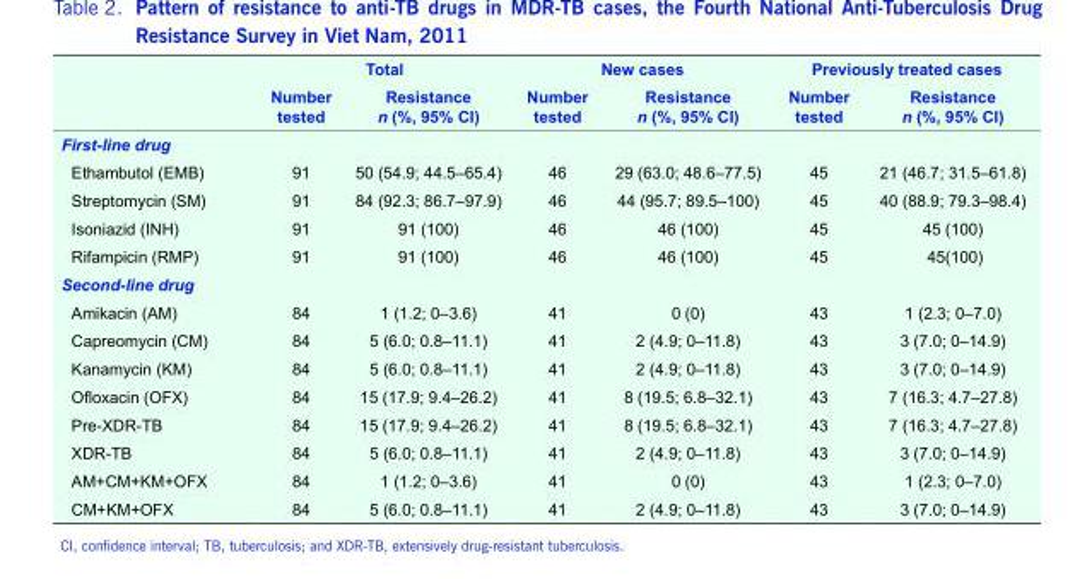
<table><thead><tr><td rowspan="2"></td><td colspan="2">Total</td><td colspan="2">New cases</td><td colspan="2">Previously treated cases</td></tr><tr><td>Number tested</td><td>Resistance n (%, 95% CI)</td><td>Number tested</td><td>Resistance n (%, 95% CI)</td><td>Number tested</td><td>Resistance n (%, 95% CI)</td></tr></thead><tbody><tr><td colspan="7">First-line drug</td></tr><tr><td>Ethambutol (EMB)</td><td>91</td><td>50 (54.9; 44.5–65.4)</td><td>46</td><td>29 (63.0; 48.6–77.5)</td><td>45</td><td>21 (46.7; 31.5–61.8)</td></tr><tr><td>Streptomycin (SM)</td><td>91</td><td>84 (92.3; 86.7–97.9)</td><td>46</td><td>44 (95.7; 89.5–100)</td><td>45</td><td>40 (88.9; 79.3–98.4)</td></tr><tr><td>Isoniazid (INH)</td><td>91</td><td>91 (100)</td><td>46</td><td>46 (100)</td><td>45</td><td>45 (100)</td></tr><tr><td>Rifampicin (RMP)</td><td>91</td><td>91 (100)</td><td>46</td><td>46 (100)</td><td>45</td><td>45(100)</td></tr><tr><td colspan="7">Second-line drug</td></tr><tr><td>Amikacin (AM)</td><td>84</td><td>1 (1.2; 0–3.6)</td><td>41</td><td>0 (0)</td><td>43</td><td>1 (2.3; 0–7.0)</td></tr><tr><td>Capreomycin (CM)</td><td>84</td><td>5 (6.0; 0.8–11.1)</td><td>41</td><td>2 (4.9; 0–11.8)</td><td>43</td><td>3 (7.0; 0–14.9)</td></tr><tr><td>Kanamycin (KM)</td><td>84</td><td>5 (6.0; 0.8–11.1)</td><td>41</td><td>2 (4.9; 0–11.8)</td><td>43</td><td>3 (7.0; 0–14.9)</td></tr><tr><td>Ofloxacin (OFX)</td><td>84</td><td>15 (17.9; 9.4–26.2)</td><td>41</td><td>8 (19.5; 6.8–32.1)</td><td>43</td><td>7 (16.3; 4.7–27.8)</td></tr><tr><td>Pre-XDR-TB</td><td>84</td><td>15 (17.9; 9.4–26.2)</td><td>41</td><td>8 (19.5; 6.8–32.1)</td><td>43</td><td>7 (16.3; 4.7–27.8)</td></tr><tr><td>XDR-TB</td><td>84</td><td>5 (6.0; 0.8–11.1)</td><td>41</td><td>2 (4.9; 0–11.8)</td><td>43</td><td>3 (7.0; 0–14.9)</td></tr><tr><td>AM+CM+KM+OFX</td><td>84</td><td>1 (1.2; 0–3.6)</td><td>41</td><td>0 (0)</td><td>43</td><td>1 (2.3; 0–7.0)</td></tr><tr><td>CM+KM+OFX</td><td>84</td><td>5 (6.0; 0.8–11.1)</td><td>41</td><td>2 (4.9; 0–11.8)</td><td>43</td><td>3 (7.0; 0–14.9)</td></tr></tbody></table>